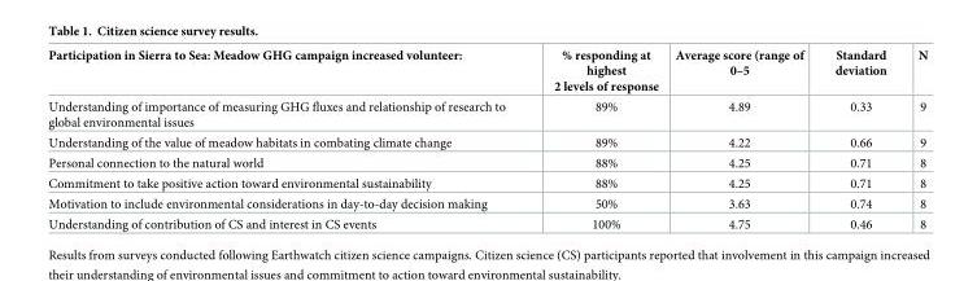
<table><thead><tr><td>Participation in Sierra to Sea: Meadow GHG campaign increased volunteer:</td><td>% responding at highest 2 levels of response</td><td>Average score (range of 0–5</td><td>Standard deviation</td><td>N</td></tr></thead><tbody><tr><td>Understanding of importance of measuring GHG fluxes and relationship of research to global environmental issues</td><td>89%</td><td>4.89</td><td>0.33</td><td>9</td></tr><tr><td>Understanding of the value of meadow habitats in combating climate change</td><td>89%</td><td>4.22</td><td>0.66</td><td>9</td></tr><tr><td>Personal connection to the natural world</td><td>88%</td><td>4.25</td><td>0.71</td><td>8</td></tr><tr><td>Commitment to take positive action toward environmental sustainability</td><td>88%</td><td>4.25</td><td>0.71</td><td>8</td></tr><tr><td>Motivation to include environmental considerations in day-to-day decision making</td><td>50%</td><td>3.63</td><td>0.74</td><td>8</td></tr><tr><td>Understanding of contribution of CS and interest in CS events</td><td>100%</td><td>4.75</td><td>0.46</td><td>8</td></tr></tbody></table>